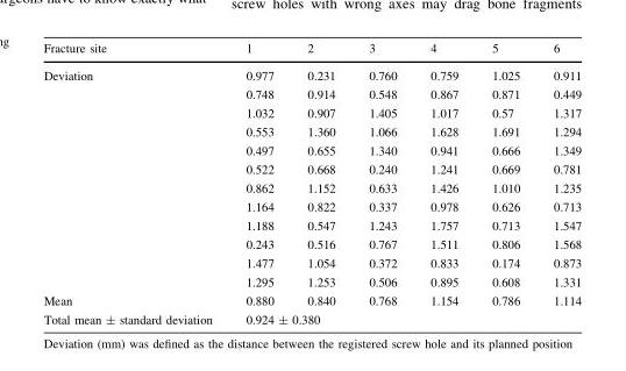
<table><thead><tr><td>Fracture site</td><td>1</td><td>2</td><td>3</td><td>4</td><td>5</td><td>6</td></tr></thead><tbody><tr><td rowspan="12">Deviation</td><td>0.977</td><td>0.231</td><td>0.760</td><td>0.759</td><td>1.025</td><td>0.911</td></tr><tr><td>0.748</td><td>0.914</td><td>0.548</td><td>0.867</td><td>0.871</td><td>0.449</td></tr><tr><td>1.032</td><td>0.907</td><td>1.405</td><td>1.017</td><td>0.57</td><td>1.317</td></tr><tr><td>0.553</td><td>1.360</td><td>1.066</td><td>1.628</td><td>1.691</td><td>1.294</td></tr><tr><td>0.497</td><td>0.655</td><td>1.340</td><td>0.941</td><td>0.666</td><td>1.349</td></tr><tr><td>0.522</td><td>0.668</td><td>0.240</td><td>1.241</td><td>0.669</td><td>0.781</td></tr><tr><td>0.862</td><td>1.152</td><td>0.633</td><td>1.426</td><td>1.010</td><td>1.235</td></tr><tr><td>1.164</td><td>0.822</td><td>0.337</td><td>0.978</td><td>0.626</td><td>0.713</td></tr><tr><td>1.188</td><td>0.547</td><td>1.243</td><td>1.757</td><td>0.713</td><td>1.547</td></tr><tr><td>0.243</td><td>0.516</td><td>0.767</td><td>1.511</td><td>0.806</td><td>1.568</td></tr><tr><td>1.477</td><td>1.054</td><td>0.372</td><td>0.833</td><td>0.174</td><td>0.873</td></tr><tr><td>1.295</td><td>1.253</td><td>0.506</td><td>0.895</td><td>0.608</td><td>1.331</td></tr><tr><td>Mean</td><td>0.880</td><td>0.840</td><td>0.768</td><td>1.154</td><td>0.786</td><td>1.114</td></tr><tr><td>Total mean ± standard deviation</td><td colspan="6">0.924 ± 0.380</td></tr></tbody></table>